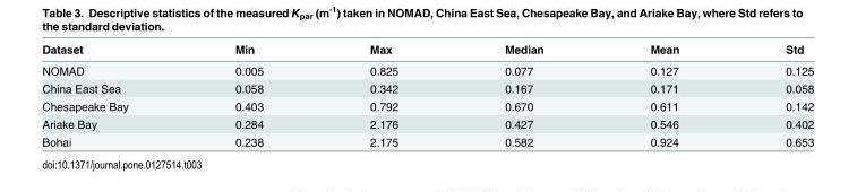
<table><thead><tr><td>Dataset</td><td>Min</td><td>Max</td><td>Median</td><td>Mean</td><td>Std</td></tr></thead><tbody><tr><td>NOMAD</td><td>0.005</td><td>0.825</td><td>0.077</td><td>0.127</td><td>0.125</td></tr><tr><td>China East Sea</td><td>0.058</td><td>0.342</td><td>0.167</td><td>0.171</td><td>0.058</td></tr><tr><td>Chesapeake Bay</td><td>0.403</td><td>0.792</td><td>0.670</td><td>0.611</td><td>0.142</td></tr><tr><td>Ariake Bay</td><td>0.284</td><td>2.176</td><td>0.427</td><td>0.546</td><td>0.402</td></tr><tr><td>Bohai</td><td>0.238</td><td>2.175</td><td>0.582</td><td>0.924</td><td>0.653</td></tr></tbody></table>